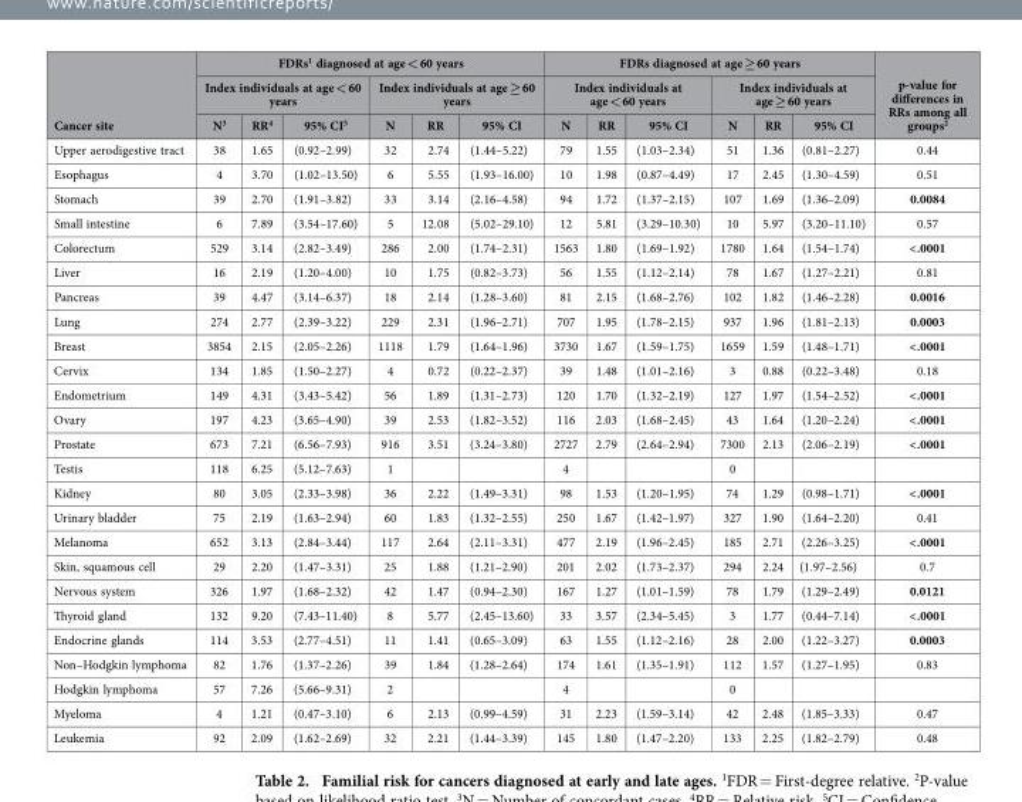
<table><thead><tr><td rowspan="3">Cancer site</td><td colspan="6">FDRs<sup>1</sup> diagnosed at age &lt; 60 years</td><td colspan="6">FDRs diagnosed at age ≥ 60 years</td><td rowspan="3">p-value for differences in RRs among all groups<sup>2</sup></td></tr><tr><td colspan="3">Index individuals at age &lt; 60 years</td><td colspan="3">Index individuals at age ≥ 60 years</td><td colspan="3">Index individuals at age &lt; 60 years</td><td colspan="3">Index individuals at age ≥ 60 years</td></tr><tr><td>N<sup>3</sup></td><td>RR<sup>4</sup></td><td>95% CI<sup>5</sup></td><td>N</td><td>RR</td><td>95% CI</td><td>N</td><td>RR</td><td>95% CI</td><td>N</td><td>RR</td><td>95% CI</td></tr></thead><tbody><tr><td>Upper aerodigestive tract</td><td>38</td><td>1.65</td><td>(0.92–2.99)</td><td>32</td><td>2.74</td><td>(1.44–5.22)</td><td>79</td><td>1.55</td><td>(1.03–2.34)</td><td>51</td><td>1.36</td><td>(0.81–2.27)</td><td>0.44</td></tr><tr><td>Esophagus</td><td>4</td><td>3.70</td><td>(1.02–13.50)</td><td>6</td><td>5.55</td><td>(1.93–16.00)</td><td>10</td><td>1.98</td><td>(0.87–4.49)</td><td>17</td><td>2.45</td><td>(1.30–4.59)</td><td>0.51</td></tr><tr><td>Stomach</td><td>39</td><td>2.70</td><td>(1.91–3.82)</td><td>33</td><td>3.14</td><td>(2.16–4.58)</td><td>94</td><td>1.72</td><td>(1.37–2.15)</td><td>107</td><td>1.69</td><td>(1.36–2.09)</td><td>0.0084</td></tr><tr><td>Small intestine</td><td>6</td><td>7.89</td><td>(3.54–17.60)</td><td>5</td><td>12.08</td><td>(5.02–29.10)</td><td>12</td><td>5.81</td><td>(3.29–10.30)</td><td>10</td><td>5.97</td><td>(3.20–11.10)</td><td>0.57</td></tr><tr><td>Colorectum</td><td>529</td><td>3.14</td><td>(2.82–3.49)</td><td>286</td><td>2.00</td><td>(1.74–2.31)</td><td>1563</td><td>1.80</td><td>(1.69–1.92)</td><td>1780</td><td>1.64</td><td>(1.54–1.74)</td><td>&lt; .0001</td></tr><tr><td>Liver</td><td>16</td><td>2.19</td><td>(1.20–4.00)</td><td>10</td><td>1.75</td><td>(0.82–3.73)</td><td>56</td><td>1.55</td><td>(1.12–2.14)</td><td>78</td><td>1.67</td><td>(1.27–2.21)</td><td>0.81</td></tr><tr><td>Pancreas</td><td>39</td><td>4.47</td><td>(3.14–6.37)</td><td>18</td><td>2.14</td><td>(1.28–3.60)</td><td>81</td><td>2.15</td><td>(1.68–2.76)</td><td>102</td><td>1.82</td><td>(1.46–2.28)</td><td>0.0016</td></tr><tr><td>Lung</td><td>274</td><td>2.77</td><td>(2.39–3.22)</td><td>229</td><td>2.31</td><td>(1.96–2.71)</td><td>707</td><td>1.95</td><td>(1.78–2.15)</td><td>937</td><td>1.96</td><td>(1.81–2.13)</td><td>0.0003</td></tr><tr><td>Breast</td><td>3854</td><td>2.15</td><td>(2.05–2.26)</td><td>1118</td><td>1.79</td><td>(1.64–1.96)</td><td>3730</td><td>1.67</td><td>(1.59–1.75)</td><td>1659</td><td>1.59</td><td>(1.48–1.71)</td><td>&lt; .0001</td></tr><tr><td>Cervix</td><td>134</td><td>1.85</td><td>(1.50–2.27)</td><td>4</td><td>0.72</td><td>(0.22–2.37)</td><td>39</td><td>1.48</td><td>(1.01–2.16)</td><td>3</td><td>0.88</td><td>(0.22–3.48)</td><td>0.18</td></tr><tr><td>Endometrium</td><td>149</td><td>4.31</td><td>(3.43–5.42)</td><td>56</td><td>1.89</td><td>(1.31–2.73)</td><td>120</td><td>1.70</td><td>(1.32–2.19)</td><td>127</td><td>1.97</td><td>(1.54–2.52)</td><td>&lt; .0001</td></tr><tr><td>Ovary</td><td>197</td><td>4.23</td><td>(3.65–4.90)</td><td>39</td><td>2.53</td><td>(1.82–3.52)</td><td>116</td><td>2.03</td><td>(1.68–2.45)</td><td>43</td><td>1.64</td><td>(1.20–2.24)</td><td>&lt; .0001</td></tr><tr><td>Prostate</td><td>673</td><td>7.21</td><td>(6.56–7.93)</td><td>916</td><td>3.51</td><td>(3.24–3.80)</td><td>2727</td><td>2.79</td><td>(2.64–2.94)</td><td>7300</td><td>2.13</td><td>(2.06–2.19)</td><td>&lt; .0001</td></tr><tr><td>Testis</td><td>118</td><td>6.25</td><td>(5.12–7.63)</td><td>1</td><td></td><td></td><td>4</td><td></td><td></td><td>0</td><td></td><td></td><td></td></tr><tr><td>Kidney</td><td>80</td><td>3.05</td><td>(2.33–3.98)</td><td>36</td><td>2.22</td><td>(1.49–3.31)</td><td>98</td><td>1.53</td><td>(1.20–1.95)</td><td>74</td><td>1.29</td><td>(0.98–1.71)</td><td>&lt; .0001</td></tr><tr><td>Urinary bladder</td><td>75</td><td>2.19</td><td>(1.63–2.94)</td><td>60</td><td>1.83</td><td>(1.32–2.55)</td><td>250</td><td>1.67</td><td>(1.42–1.97)</td><td>327</td><td>1.90</td><td>(1.64–2.20)</td><td>0.41</td></tr><tr><td>Melanoma</td><td>652</td><td>3.13</td><td>(2.84–3.44)</td><td>117</td><td>2.64</td><td>(2.11–3.31)</td><td>477</td><td>2.19</td><td>(1.96–2.45)</td><td>185</td><td>2.71</td><td>(2.26–3.25)</td><td>&lt; .0001</td></tr><tr><td>Skin, squamous cell</td><td>29</td><td>2.20</td><td>(1.47–3.31)</td><td>25</td><td>1.88</td><td>(1.21–2.90)</td><td>201</td><td>2.02</td><td>(1.73–2.37)</td><td>294</td><td>2.24</td><td>(1.97–2.56)</td><td>0.7</td></tr><tr><td>Nervous system</td><td>326</td><td>1.97</td><td>(1.68–2.32)</td><td>42</td><td>1.47</td><td>(0.94–2.30)</td><td>167</td><td>1.27</td><td>(1.01–1.59)</td><td>78</td><td>1.79</td><td>(1.29–2.49)</td><td>0.0121</td></tr><tr><td>Thyroid gland</td><td>132</td><td>9.20</td><td>(7.43–11.40)</td><td>8</td><td>5.77</td><td>(2.45–13.60)</td><td>33</td><td>3.57</td><td>(2.34–5.45)</td><td>3</td><td>1.77</td><td>(0.44–7.14)</td><td>&lt; .0001</td></tr><tr><td>Endocrine glands</td><td>114</td><td>3.53</td><td>(2.77–4.51)</td><td>11</td><td>1.41</td><td>(0.65–3.09)</td><td>63</td><td>1.55</td><td>(1.12–2.16)</td><td>28</td><td>2.00</td><td>(1.22–3.27)</td><td>0.0003</td></tr><tr><td>Non–Hodgkin lymphoma</td><td>82</td><td>1.76</td><td>(1.37–2.26)</td><td>39</td><td>1.84</td><td>(1.28–2.64)</td><td>174</td><td>1.61</td><td>(1.35–1.91)</td><td>112</td><td>1.57</td><td>(1.27–1.95)</td><td>0.83</td></tr><tr><td>Hodgkin lymphoma</td><td>57</td><td>7.26</td><td>(5.66–9.31)</td><td>2</td><td></td><td></td><td>4</td><td></td><td></td><td>0</td><td></td><td></td><td></td></tr><tr><td>Myeloma</td><td>4</td><td>1.21</td><td>(0.47–3.10)</td><td>6</td><td>2.13</td><td>(0.99–4.59)</td><td>31</td><td>2.23</td><td>(1.59–3.14)</td><td>42</td><td>2.48</td><td>(1.85–3.33)</td><td>0.47</td></tr><tr><td>Leukemia</td><td>92</td><td>2.09</td><td>(1.62–2.69)</td><td>32</td><td>2.21</td><td>(1.44–3.39)</td><td>145</td><td>1.80</td><td>(1.47–2.20)</td><td>133</td><td>2.25</td><td>(1.82–2.79)</td><td>0.48</td></tr></tbody></table>